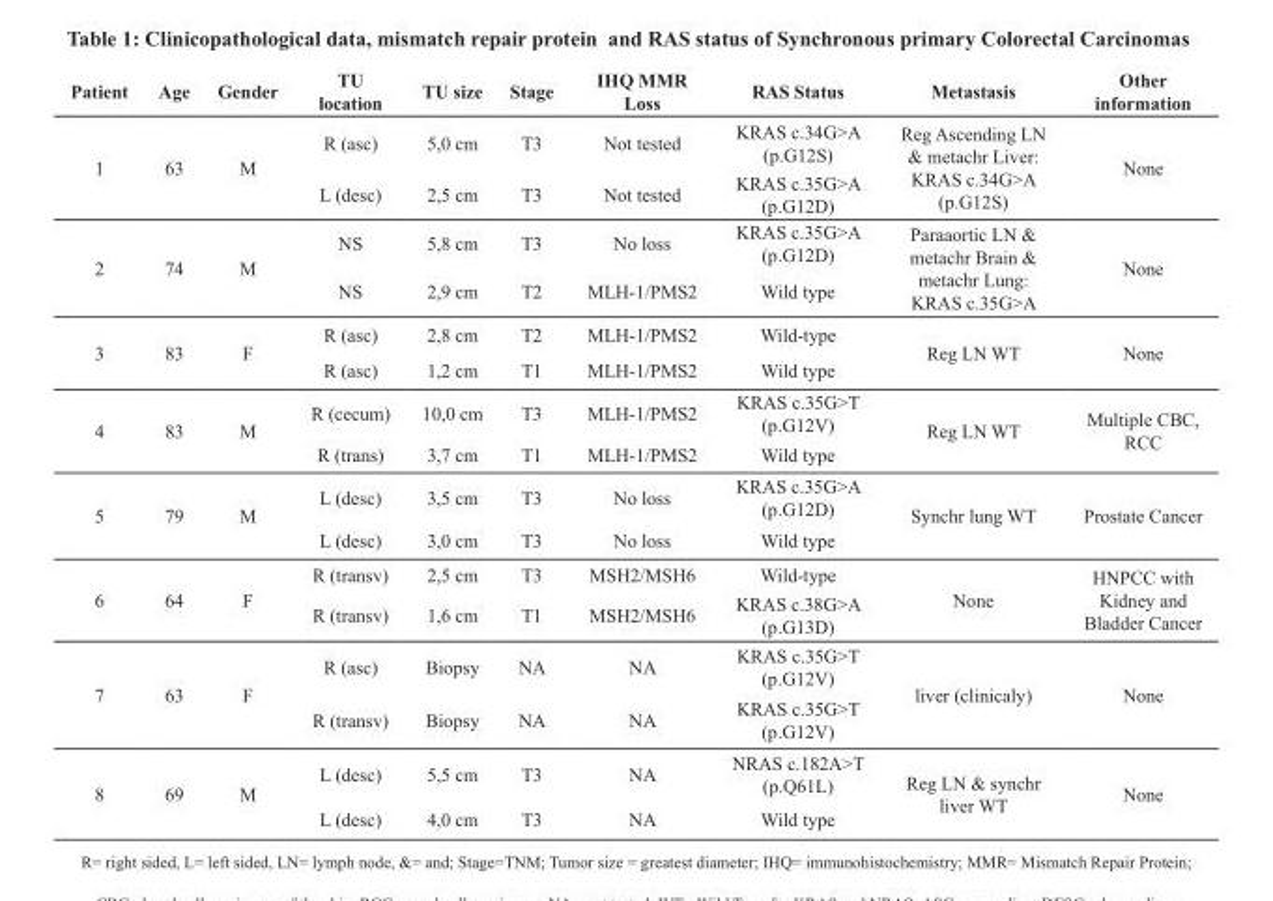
<table><thead><tr><td>Patient</td><td>Age</td><td>Gender</td><td>TU location</td><td>TU size</td><td>Stage</td><td>IHQ MMR Loss</td><td>RAS Status</td><td>Metastasis</td><td>Other information</td></tr></thead><tbody><tr><td rowspan="2">1</td><td rowspan="2">63</td><td rowspan="2">M</td><td>R (asc)</td><td>5,0 cm</td><td>T3</td><td>Not tested</td><td>KRAS c.34G&gt;A (p.G12S)</td><td rowspan="2">Reg Ascending LN &amp; metachr Liver: KRAS c.34G&gt;A (p.G12S)</td><td rowspan="2">None</td></tr><tr><td>L (desc)</td><td>2,5 cm</td><td>T3</td><td>Not tested</td><td>KRAS c.35G&gt;A (p.G12D)</td></tr><tr><td rowspan="2">2</td><td rowspan="2">74</td><td rowspan="2">M</td><td>NS</td><td>5,8 cm</td><td>T3</td><td>No loss</td><td>KRAS c.35G&gt;A (p.G12D)</td><td rowspan="2">Paraaortic LN &amp; metachr Brain &amp; metachr Lung: KRAS c.35G&gt;A</td><td rowspan="2">None</td></tr><tr><td>NS</td><td>2,9 cm</td><td>T2</td><td>MLH-1/PMS2</td><td>Wild type</td></tr><tr><td rowspan="2">3</td><td rowspan="2">83</td><td rowspan="2">F</td><td>R (asc)</td><td>2,8 cm</td><td>T2</td><td>MLH-1/PMS2</td><td>Wild-type</td><td rowspan="2">Reg LN WT</td><td rowspan="2">None</td></tr><tr><td>R (asc)</td><td>1,2 cm</td><td>T1</td><td>MLH-1/PMS2</td><td>Wild type</td></tr><tr><td rowspan="2">4</td><td rowspan="2">83</td><td rowspan="2">M</td><td>R (cecum)</td><td>10,0 cm</td><td>T3</td><td>MLH-1/PMS2</td><td>KRAS c.35G&gt;T (p.G12V)</td><td rowspan="2">Reg LN WT</td><td rowspan="2">Multiple CBC, RCC</td></tr><tr><td>R (trans)</td><td>3,7 cm</td><td>T1</td><td>MLH-1/PMS2</td><td>Wild type</td></tr><tr><td rowspan="2">5</td><td rowspan="2">79</td><td rowspan="2">M</td><td>L (desc)</td><td>3,5 cm</td><td>T3</td><td>No loss</td><td>KRAS c.35G&gt;A (p.G12D)</td><td rowspan="2">Synchr lung WT</td><td rowspan="2">Prostate Cancer</td></tr><tr><td>L (desc)</td><td>3,0 cm</td><td>T3</td><td>No loss</td><td>Wild type</td></tr><tr><td rowspan="2">6</td><td rowspan="2">64</td><td rowspan="2">F</td><td>R (transv)</td><td>2,5 cm</td><td>T3</td><td>MSH2/MSH6</td><td>Wild-type</td><td rowspan="2">None</td><td rowspan="2">HNPCC with Kidney and Bladder Cancer</td></tr><tr><td>R (transv)</td><td>1,6 cm</td><td>T1</td><td>MSH2/MSH6</td><td>KRAS c.38G&gt;A (p.G13D)</td></tr><tr><td rowspan="2">7</td><td rowspan="2">63</td><td rowspan="2">F</td><td>R (asc)</td><td>Biopsy</td><td>NA</td><td>NA</td><td>KRAS c.35G&gt;T (p.G12V)</td><td rowspan="2">liver (clinicaly)</td><td rowspan="2">None</td></tr><tr><td>R (transv)</td><td>Biopsy</td><td>NA</td><td>NA</td><td>KRAS c.35G&gt;T (p.G12V)</td></tr><tr><td rowspan="2">8</td><td rowspan="2">69</td><td rowspan="2">M</td><td>L (desc)</td><td>5,5 cm</td><td>T3</td><td>NA</td><td>NRAS c.182A&gt;T (p.Q61L)</td><td rowspan="2">Reg LN &amp; synchr liver WT</td><td rowspan="2">None</td></tr><tr><td>L (desc)</td><td>4,0 cm</td><td>T3</td><td>NA</td><td>Wild type</td></tr></tbody></table>